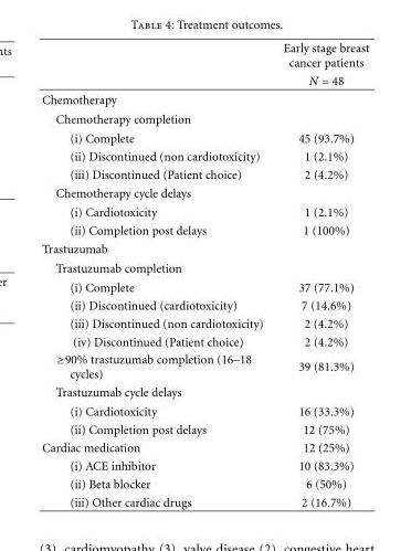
<table><thead><tr><td rowspan="2"></td><td rowspan="2">Early stage breast cancer patients N = 48</td></tr><tr></tr></thead><tbody><tr><td colspan="2">Chemotherapy</td></tr><tr><td colspan="2">Chemotherapy completion</td></tr><tr><td>(i) Complete</td><td>45 (93.7%)</td></tr><tr><td>(ii) Discontinued (non cardiotoxicity)</td><td>1 (2.1%)</td></tr><tr><td>(iii) Discontinued (Patient choice)</td><td>2 (4.2%)</td></tr><tr><td colspan="2">Chemotherapy cycle delays</td></tr><tr><td>(i) Cardiotoxicity</td><td>1 (2.1%)</td></tr><tr><td>(ii) Completion post delays</td><td>1 (100%)</td></tr><tr><td colspan="2">Trastuzumab</td></tr><tr><td colspan="2">Trastuzumab completion</td></tr><tr><td>(i) Complete</td><td>37 (77.1%)</td></tr><tr><td>(ii) Discontinued (cardiotoxicity)</td><td>7 (14.6%)</td></tr><tr><td>(iii) Discontinued (non cardiotoxicity)</td><td>2 (4.2%)</td></tr><tr><td>(iv) Discontinued (Patient choice)</td><td>2 (4.2%)</td></tr><tr><td>≥90% trastuzumab completion (16–18 cycles)</td><td>39 (81.3%)</td></tr><tr><td colspan="2">Trastuzumab cycle delays</td></tr><tr><td>(i) Cardiotoxicity</td><td>16 (33.3%)</td></tr><tr><td>(ii) Completion post delays</td><td>12 (75%)</td></tr><tr><td>Cardiac medication</td><td>12 (25%)</td></tr><tr><td>(i) ACE inhibitor</td><td>10 (83.3%)</td></tr><tr><td>(ii) Beta blocker</td><td>6 (50%)</td></tr><tr><td>(iii) Other cardiac drugs</td><td>2 (16.7%)</td></tr></tbody></table>